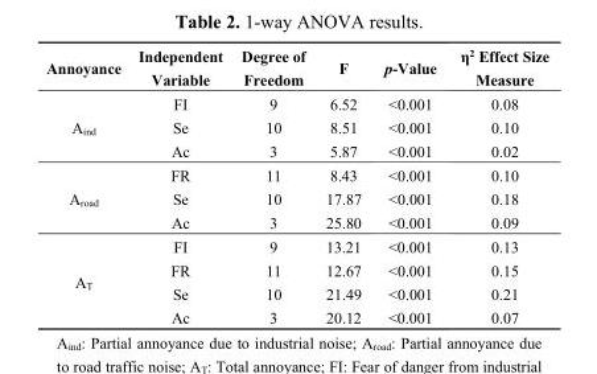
<table><thead><tr><td>Annoyance</td><td>Independent Variable</td><td>Degree of Freedom</td><td>F</td><td>p-Value</td><td>η<sup>2</sup> Effect Size Measure</td></tr></thead><tbody><tr><td rowspan="3">A<sub>ind</sub></td><td>FI</td><td>9</td><td>6.52</td><td>&lt;0.001</td><td>0.08</td></tr><tr><td>Se</td><td>10</td><td>8.51</td><td>&lt;0.001</td><td>0.10</td></tr><tr><td>Ac</td><td>3</td><td>5.87</td><td>&lt;0.001</td><td>0.02</td></tr><tr><td rowspan="3">A<sub>road</sub></td><td>FR</td><td>11</td><td>8.43</td><td>&lt;0.001</td><td>0.10</td></tr><tr><td>Se</td><td>10</td><td>17.87</td><td>&lt;0.001</td><td>0.18</td></tr><tr><td>Ac</td><td>3</td><td>25.80</td><td>&lt;0.001</td><td>0.09</td></tr><tr><td rowspan="4">A<sub>T</sub></td><td>FI</td><td>9</td><td>13.21</td><td>&lt;0.001</td><td>0.13</td></tr><tr><td>FR</td><td>11</td><td>12.67</td><td>&lt;0.001</td><td>0.15</td></tr><tr><td>Se</td><td>10</td><td>21.49</td><td>&lt;0.001</td><td>0.21</td></tr><tr><td>Ac</td><td>3</td><td>20.12</td><td>&lt;0.001</td><td>0.07</td></tr></tbody></table>